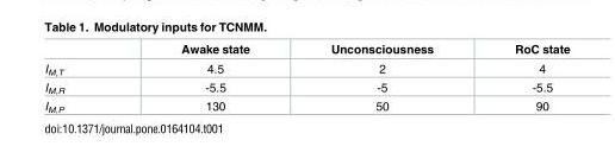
<table><thead><tr><td></td><td>Awake state</td><td>Unconsciousness</td><td>RoC state</td></tr></thead><tbody><tr><td>I<sub>M,T</sub></td><td>4.5</td><td>2</td><td>4</td></tr><tr><td>I<sub>M,R</sub></td><td>-5.5</td><td>-5</td><td>-5.5</td></tr><tr><td>I<sub>M,P</sub></td><td>130</td><td>50</td><td>90</td></tr></tbody></table>